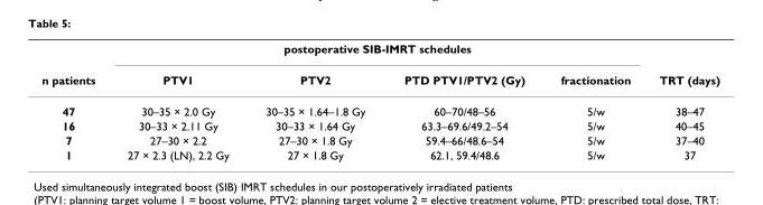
<table><thead><tr><td rowspan="2">n patients</td><td colspan="4">postoperative SIB-IMRT schedules</td><td rowspan="2">TRT (days)</td></tr><tr><td>PTV1</td><td>PTV2</td><td>PTD PTV1/PTV2 (Gy)</td><td>fractionation</td></tr></thead><tbody><tr><td>47</td><td>30–35 × 2.0 Gy</td><td>30–35 × 1.64–1.8 Gy</td><td>60–70/48–56</td><td>5/w</td><td>38–47</td></tr><tr><td>16</td><td>30–33 × 2.11 Gy</td><td>30–33 × 1.64 Gy</td><td>63.3–69.6/49.2–54</td><td>5/w</td><td>40–45</td></tr><tr><td>7</td><td>27–30 × 2.2</td><td>27–30 × 1.8 Gy</td><td>59.4–66/48.6–54</td><td>5/w</td><td>37–40</td></tr><tr><td>1</td><td>27 × 2.3 (LN), 2.2 Gy</td><td>27 × 1.8 Gy</td><td>62.1, 59.4/48.6</td><td>5/w</td><td>37</td></tr></tbody></table>